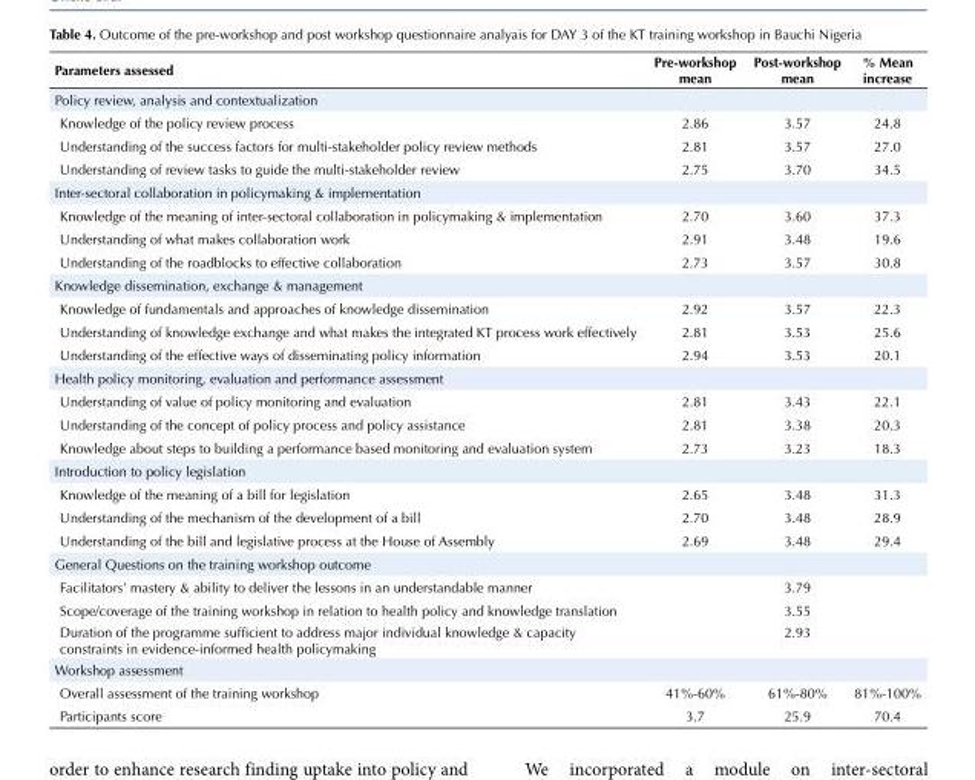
<table><tbody><tr><td>Parameters assessed</td><td>Pre-workshop mean</td><td>Post-workshop mean</td><td>% Mean increase</td></tr><tr><td colspan="4">Policy review, analysis and contextualization</td></tr><tr><td>Knowledge of the policy review process</td><td>2.86</td><td>3.57</td><td>24.8</td></tr><tr><td>Understanding of the success factors for multi-stakeholder policy review methods</td><td>2.81</td><td>3.57</td><td>27.0</td></tr><tr><td>Understanding of review tasks to guide the multi-stakeholder review</td><td>2.75</td><td>3.70</td><td>34.5</td></tr><tr><td colspan="4">Inter-sectoral collaboration in policymaking &amp; implementation</td></tr><tr><td>Knowledge of the meaning of inter-sectoral collaboration in policymaking &amp; implementation</td><td>2.70</td><td>3.60</td><td>37.3</td></tr><tr><td>Understanding of what makes collaboration work</td><td>2.91</td><td>3.48</td><td>19.6</td></tr><tr><td>Understanding of the roadblocks to effective collaboration</td><td>2.73</td><td>3.57</td><td>30.8</td></tr><tr><td colspan="4">Knowledge dissemination, exchange &amp; management</td></tr><tr><td>Knowledge of fundamentals and approaches of knowledge dissemination</td><td>2.92</td><td>3.57</td><td>22.3</td></tr><tr><td>Understanding of knowledge exchange and what makes the integrated KT process work effectively</td><td>2.81</td><td>3.53</td><td>25.6</td></tr><tr><td>Understanding of the effective ways of disseminating policy information</td><td>2.94</td><td>3.53</td><td>20.1</td></tr><tr><td colspan="4">Health policy monitoring, evaluation and performance assessment</td></tr><tr><td>Understanding of value of policy monitoring and evaluation</td><td>2.81</td><td>3.43</td><td>22.1</td></tr><tr><td>Understanding of the concept of policy process and policy assistance</td><td>2.81</td><td>3.38</td><td>20.3</td></tr><tr><td>Knowledge about steps to building a performance based monitoring and evaluation system</td><td>2.73</td><td>3.23</td><td>18.3</td></tr><tr><td colspan="4">Introduction to policy legislation</td></tr><tr><td>Knowledge of the meaning of a bill for legislation</td><td>2.65</td><td>3.48</td><td>31.3</td></tr><tr><td>Understanding of the mechanism of the development of a bill</td><td>2.70</td><td>3.48</td><td>28.9</td></tr><tr><td>Understanding of the bill and legislative process at the House of Assembly</td><td>2.69</td><td>3.48</td><td>29.4</td></tr><tr><td colspan="4">General Questions on the training workshop outcome</td></tr><tr><td>Facilitators’ mastery &amp; ability to deliver the lessons in an understandable manner</td><td></td><td>3.79</td><td></td></tr><tr><td>Scope/coverage of the training workshop in relation to health policy and knowledge translation</td><td></td><td>3.55</td><td></td></tr><tr><td>Duration of the programme sufficient to address major individual knowledge &amp; capacity constraints in evidence-informed health policymaking</td><td></td><td>2.93</td><td></td></tr><tr><td colspan="4">Workshop assessment</td></tr><tr><td>Overall assessment of the training workshop</td><td>41%-60%</td><td>61%-80%</td><td>81%-100%</td></tr><tr><td>Participants score</td><td>3.7</td><td>25.9</td><td>70.4</td></tr></tbody></table>